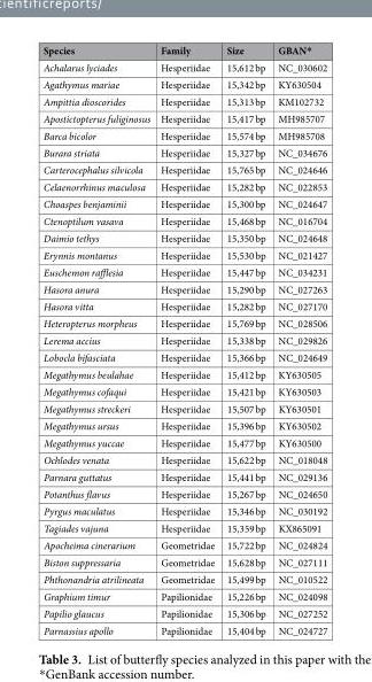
<table><thead><tr><td>Species</td><td>Family</td><td>Size</td><td>GBAN*</td></tr></thead><tbody><tr><td>Achalarus lyciades</td><td>Hesperiidae</td><td>15,612 bp</td><td>NC_030602</td></tr><tr><td>Agathymus mariae</td><td>Hesperiidae</td><td>15,342 bp</td><td>KY630504</td></tr><tr><td>Ampittia dioscorides</td><td>Hesperiidae</td><td>15,313 bp</td><td>KM102732</td></tr><tr><td>Apostictopterus fuliginosus</td><td>Hesperiidae</td><td>15,417 bp</td><td>MH985707</td></tr><tr><td>Barca bicolor</td><td>Hesperiidae</td><td>15,574 bp</td><td>MH985708</td></tr><tr><td>Burara striata</td><td>Hesperiidae</td><td>15,327 bp</td><td>NC_034676</td></tr><tr><td>Carterocephalus silvicola</td><td>Hesperiidae</td><td>15,765 bp</td><td>NC_024646</td></tr><tr><td>Celaenorrhinus maculosa</td><td>Hesperiidae</td><td>15,282 bp</td><td>NC_022853</td></tr><tr><td>Choaspes benjaminii</td><td>Hesperiidae</td><td>15,300 bp</td><td>NC_024647</td></tr><tr><td>Ctenoptilum vasava</td><td>Hesperiidae</td><td>15,468 bp</td><td>NC_016704</td></tr><tr><td>Daimio tethys</td><td>Hesperiidae</td><td>15,350 bp</td><td>NC_024648</td></tr><tr><td>Erynnis montanus</td><td>Hesperiidae</td><td>15,530 bp</td><td>NC_021427</td></tr><tr><td>Euschemon rafflesia</td><td>Hesperiidae</td><td>15,447 bp</td><td>NC_034231</td></tr><tr><td>Hasora anura</td><td>Hesperiidae</td><td>15,290 bp</td><td>NC_027263</td></tr><tr><td>Hasora vitta</td><td>Hesperiidae</td><td>15,282 bp</td><td>NC_027170</td></tr><tr><td>Heteropterus morpheus</td><td>Hesperiidae</td><td>15,769 bp</td><td>NC_028506</td></tr><tr><td>Lerema accius</td><td>Hesperiidae</td><td>15,338 bp</td><td>NC_029826</td></tr><tr><td>Lobocla bifasciata</td><td>Hesperiidae</td><td>15,366 bp</td><td>NC_024649</td></tr><tr><td>Megathymus beulahae</td><td>Hesperiidae</td><td>15,412 bp</td><td>KY630505</td></tr><tr><td>Megathymus cofaqui</td><td>Hesperiidae</td><td>15,421 bp</td><td>KY630503</td></tr><tr><td>Megathymus streckeri</td><td>Hesperiidae</td><td>15,507 bp</td><td>KY630501</td></tr><tr><td>Megathymus ursus</td><td>Hesperiidae</td><td>15,396 bp</td><td>KY630502</td></tr><tr><td>Megathymus yuccae</td><td>Hesperiidae</td><td>15,477 bp</td><td>KY630500</td></tr><tr><td>Ochlodes venata</td><td>Hesperiidae</td><td>15,622 bp</td><td>NC_018048</td></tr><tr><td>Parnara guttatus</td><td>Hesperiidae</td><td>15,441 bp</td><td>NC_029136</td></tr><tr><td>Potanthus flavus</td><td>Hesperiidae</td><td>15,267 bp</td><td>NC_024650</td></tr><tr><td>Pyrgus maculatus</td><td>Hesperiidae</td><td>15,346 bp</td><td>NC_030192</td></tr><tr><td>Tagiades vajuna</td><td>Hesperiidae</td><td>15,359 bp</td><td>KX865091</td></tr><tr><td>Apocheima cinerarium</td><td>Geometridae</td><td>15,722 bp</td><td>NC_024824</td></tr><tr><td>Biston suppressaria</td><td>Geometridae</td><td>15,628 bp</td><td>NC_027111</td></tr><tr><td>Phthonandria atrilineata</td><td>Geometridae</td><td>15,499 bp</td><td>NC_010522</td></tr><tr><td>Graphium timur</td><td>Papilionidae</td><td>15,226 bp</td><td>NC_024098</td></tr><tr><td>Papilio glaucus</td><td>Papilionidae</td><td>15,306 bp</td><td>NC_027252</td></tr><tr><td>Parnassius apollo</td><td>Papilionidae</td><td>15,404 bp</td><td>NC_024727</td></tr></tbody></table>